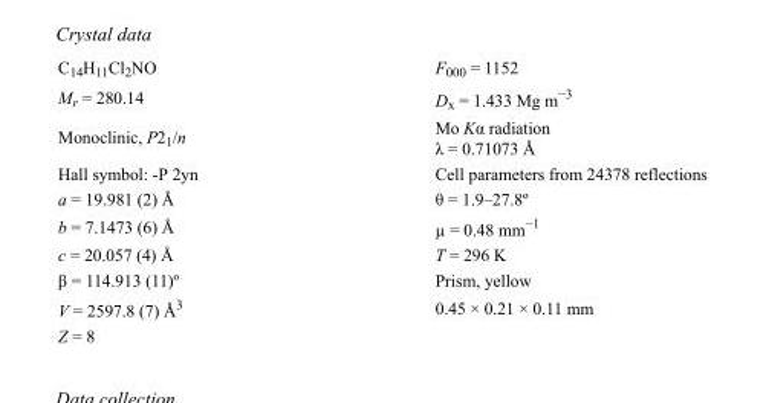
<table><tbody><tr><td>C<sub>14</sub>H<sub>11</sub>Cl<sub>2</sub>NO</td><td>F000 = 1152</td></tr><tr><td>M<sub>r</sub> = 280.14</td><td>D<sub>x</sub> = 1.433 Mg m<sup>−3</sup></td></tr><tr><td>Monoclinic, P2<sub>1</sub>/n</td><td>Mo Kα radiation λ = 0.71073 Å</td></tr><tr><td>Hall symbol: -P 2yn</td><td>Cell parameters from 24378 reflections</td></tr><tr><td>a = 19.981 (2) Å</td><td>θ = 1.9–27.8º</td></tr><tr><td>b = 7.1473 (6) Å</td><td>µ = 0.48 mm<sup>−1</sup></td></tr><tr><td>c = 20.057 (4) Å</td><td>T = 296 K</td></tr><tr><td>β = 114.913 (11)º</td><td>Prism, yellow</td></tr><tr><td>V = 2597.8 (7) Å<sup>3</sup></td><td>0.45 × 0.21 × 0.11 mm</td></tr><tr><td>Z = 8</td><td></td></tr></tbody></table>